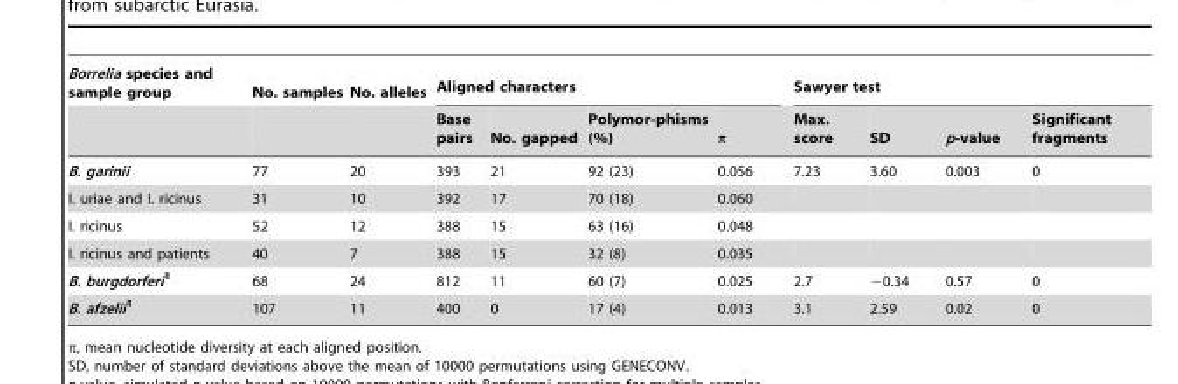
<table><thead><tr><td rowspan="2">Borrelia species and sample group</td><td rowspan="2">No. samples</td><td rowspan="2">No. alleles</td><td colspan="4">Aligned characters</td><td colspan="4">Sawyer test</td></tr><tr><td>Base pairs</td><td>No. gapped</td><td>Polymor-phisms (%)</td><td>π</td><td>Max. score</td><td>SD</td><td>p-value</td><td>Significant fragments</td></tr></thead><tbody><tr><td>B. garinii</td><td>77</td><td>20</td><td>393</td><td>21</td><td>92 (23)</td><td>0.056</td><td>7.23</td><td>3.60</td><td>0.003</td><td>0</td></tr><tr><td>I. uriae and I. ricinus</td><td>31</td><td>10</td><td>392</td><td>17</td><td>70 (18)</td><td>0.060</td><td></td><td></td><td></td><td></td></tr><tr><td>I. ricinus</td><td>52</td><td>12</td><td>388</td><td>15</td><td>63 (16)</td><td>0.048</td><td></td><td></td><td></td><td></td></tr><tr><td>I. ricinus and patients</td><td>40</td><td>7</td><td>388</td><td>15</td><td>32 (8)</td><td>0.035</td><td></td><td></td><td></td><td></td></tr><tr><td>B. burgdorferi1</td><td>68</td><td>24</td><td>812</td><td>11</td><td>60 (7)</td><td>0.025</td><td>2.7</td><td>−0.34</td><td>0.57</td><td>0</td></tr><tr><td>B. afzelii1</td><td>107</td><td>11</td><td>400</td><td>0</td><td>17 (4)</td><td>0.013</td><td>3.1</td><td>2.59</td><td>0.02</td><td>0</td></tr></tbody></table>